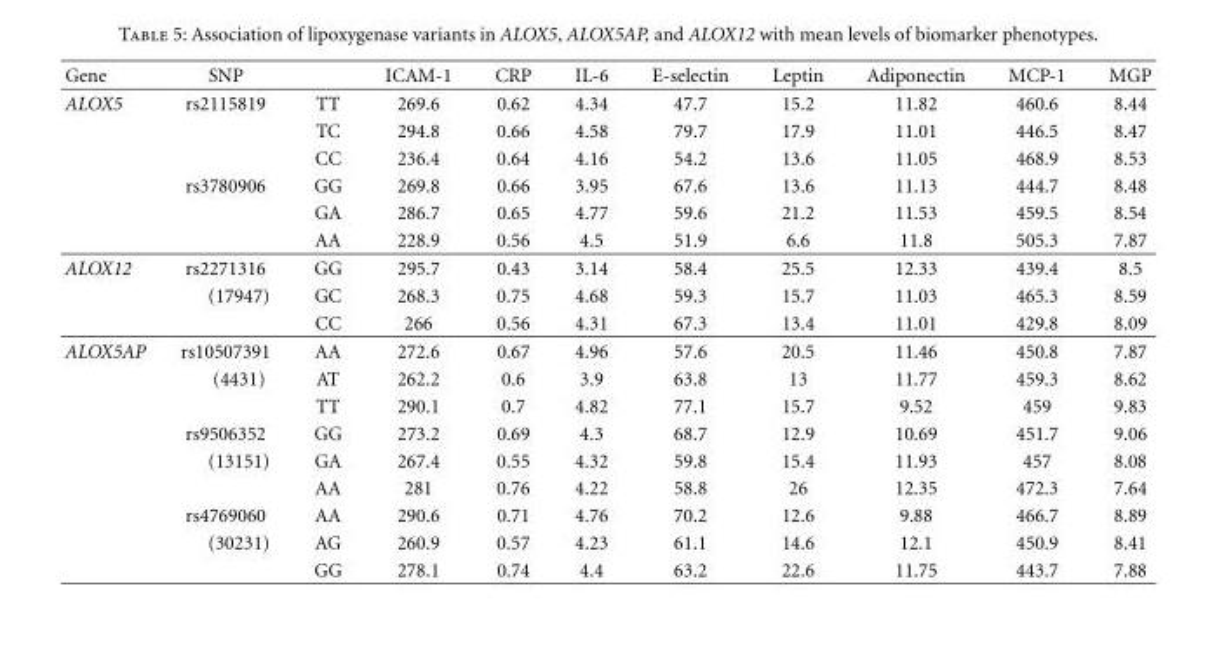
<table><thead><tr><td>Gene</td><td>SNP</td><td></td><td>ICAM-1</td><td>CRP</td><td>IL-6</td><td>E-selectin</td><td>Leptin</td><td>Adiponectin</td><td>MCP-1</td><td>MGP</td></tr></thead><tbody><tr><td rowspan="6">ALOX5</td><td>rs2115819</td><td>TT</td><td>269.6</td><td>0.62</td><td>4.34</td><td>47.7</td><td>15.2</td><td>11.82</td><td>460.6</td><td>8.44</td></tr><tr><td></td><td>TC</td><td>294.8</td><td>0.66</td><td>4.58</td><td>79.7</td><td>17.9</td><td>11.01</td><td>446.5</td><td>8.47</td></tr><tr><td></td><td>CC</td><td>236.4</td><td>0.64</td><td>4.16</td><td>54.2</td><td>13.6</td><td>11.05</td><td>468.9</td><td>8.53</td></tr><tr><td>rs3780906</td><td>GG</td><td>269.8</td><td>0.66</td><td>3.95</td><td>67.6</td><td>13.6</td><td>11.13</td><td>444.7</td><td>8.48</td></tr><tr><td></td><td>GA</td><td>286.7</td><td>0.65</td><td>4.77</td><td>59.6</td><td>21.2</td><td>11.53</td><td>459.5</td><td>8.54</td></tr><tr><td></td><td>AA</td><td>228.9</td><td>0.56</td><td>4.5</td><td>51.9</td><td>6.6</td><td>11.8</td><td>505.3</td><td>7.87</td></tr><tr><td rowspan="3">ALOX12</td><td>rs2271316</td><td>GG</td><td>295.7</td><td>0.43</td><td>3.14</td><td>58.4</td><td>25.5</td><td>12.33</td><td>439.4</td><td>8.5</td></tr><tr><td>(17947)</td><td>GC</td><td>268.3</td><td>0.75</td><td>4.68</td><td>59.3</td><td>15.7</td><td>11.03</td><td>465.3</td><td>8.59</td></tr><tr><td></td><td>CC</td><td>266</td><td>0.56</td><td>4.31</td><td>67.3</td><td>13.4</td><td>11.01</td><td>429.8</td><td>8.09</td></tr><tr><td rowspan="9">ALOX5AP</td><td>rs10507391</td><td>AA</td><td>272.6</td><td>0.67</td><td>4.96</td><td>57.6</td><td>20.5</td><td>11.46</td><td>450.8</td><td>7.87</td></tr><tr><td>(4431)</td><td>AT</td><td>262.2</td><td>0.6</td><td>3.9</td><td>63.8</td><td>13</td><td>11.77</td><td>459.3</td><td>8.62</td></tr><tr><td></td><td>TT</td><td>290.1</td><td>0.7</td><td>4.82</td><td>77.1</td><td>15.7</td><td>9.52</td><td>459</td><td>9.83</td></tr><tr><td>rs9506352</td><td>GG</td><td>273.2</td><td>0.69</td><td>4.3</td><td>68.7</td><td>12.9</td><td>10.69</td><td>451.7</td><td>9.06</td></tr><tr><td>(13151)</td><td>GA</td><td>267.4</td><td>0.55</td><td>4.32</td><td>59.8</td><td>15.4</td><td>11.93</td><td>457</td><td>8.08</td></tr><tr><td></td><td>AA</td><td>281</td><td>0.76</td><td>4.22</td><td>58.8</td><td>26</td><td>12.35</td><td>472.3</td><td>7.64</td></tr><tr><td>rs4769060</td><td>AA</td><td>290.6</td><td>0.71</td><td>4.76</td><td>70.2</td><td>12.6</td><td>9.88</td><td>466.7</td><td>8.89</td></tr><tr><td>(30231)</td><td>AG</td><td>260.9</td><td>0.57</td><td>4.23</td><td>61.1</td><td>14.6</td><td>12.1</td><td>450.9</td><td>8.41</td></tr><tr><td></td><td>GG</td><td>278.1</td><td>0.74</td><td>4.4</td><td>63.2</td><td>22.6</td><td>11.75</td><td>443.7</td><td>7.88</td></tr></tbody></table>